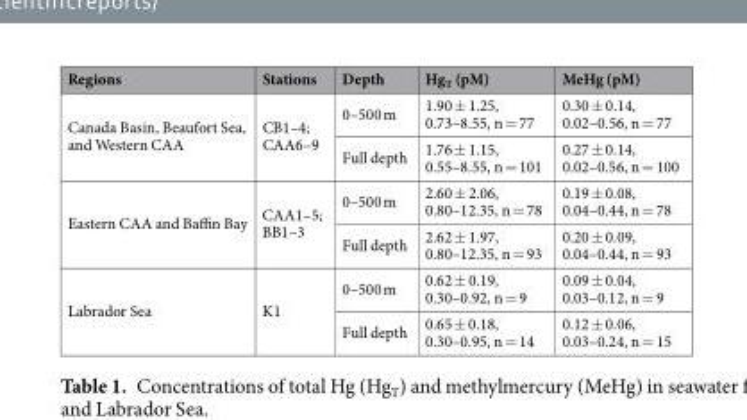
<table><thead><tr><td>Regions</td><td>Stations</td><td>Depth</td><td>Hg<sub>T</sub> (pM)</td><td>MeHg (pM)</td></tr></thead><tbody><tr><td rowspan="2">Canada Basin, Beaufort Sea, and Western CAA</td><td rowspan="2">CB1–4; CAA6–9</td><td>0–500 m</td><td>1.90 ± 1.25, 0.73–8.55, n = 77</td><td>0.30 ± 0.14, 0.02–0.56, n = 77</td></tr><tr><td>Full depth</td><td>1.76 ± 1.15, 0.55–8.55, n = 101</td><td>0.27 ± 0.14, 0.02–0.56, n = 100</td></tr><tr><td rowspan="2">Eastern CAA and Baffin Bay</td><td rowspan="2">CAA1–5; BB1–3</td><td>0–500 m</td><td>2.60 ± 2.06, 0.80–12.35, n = 78</td><td>0.19 ± 0.08, 0.04–0.44, n = 78</td></tr><tr><td>Full depth</td><td>2.62 ± 1.97, 0.80–12.35, n = 93</td><td>0.20 ± 0.09, 0.04–0.44, n = 93</td></tr><tr><td rowspan="2">Labrador Sea</td><td rowspan="2">K1</td><td>0–500 m</td><td>0.62 ± 0.19, 0.30–0.92, n = 9</td><td>0.09 ± 0.04, 0.03–0.12, n = 9</td></tr><tr><td>Full depth</td><td>0.65 ± 0.18, 0.30–0.95, n = 14</td><td>0.12 ± 0.06, 0.03–0.24, n = 15</td></tr></tbody></table>